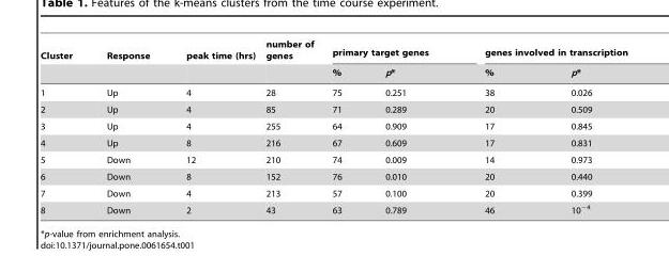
<table><thead><tr><td rowspan="2">Cluster</td><td rowspan="2">Response</td><td rowspan="2">peak time (hrs)</td><td rowspan="2">number of genes</td><td colspan="2">primary target genes</td><td colspan="2">genes involved in transcription</td></tr><tr><td>%</td><td>p*</td><td>%</td><td>p*</td></tr></thead><tbody><tr><td>1</td><td>Up</td><td>4</td><td>28</td><td>75</td><td>0.251</td><td>38</td><td>0.026</td></tr><tr><td>2</td><td>Up</td><td>4</td><td>85</td><td>71</td><td>0.289</td><td>20</td><td>0.509</td></tr><tr><td>3</td><td>Up</td><td>4</td><td>255</td><td>64</td><td>0.909</td><td>17</td><td>0.845</td></tr><tr><td>4</td><td>Up</td><td>8</td><td>216</td><td>67</td><td>0.609</td><td>17</td><td>0.831</td></tr><tr><td>5</td><td>Down</td><td>12</td><td>210</td><td>74</td><td>0.009</td><td>14</td><td>0.973</td></tr><tr><td>6</td><td>Down</td><td>8</td><td>152</td><td>76</td><td>0.010</td><td>20</td><td>0.440</td></tr><tr><td>7</td><td>Down</td><td>4</td><td>213</td><td>57</td><td>0.100</td><td>20</td><td>0.399</td></tr><tr><td>8</td><td>Down</td><td>2</td><td>43</td><td>63</td><td>0.789</td><td>46</td><td>10<sup>−4</sup></td></tr></tbody></table>